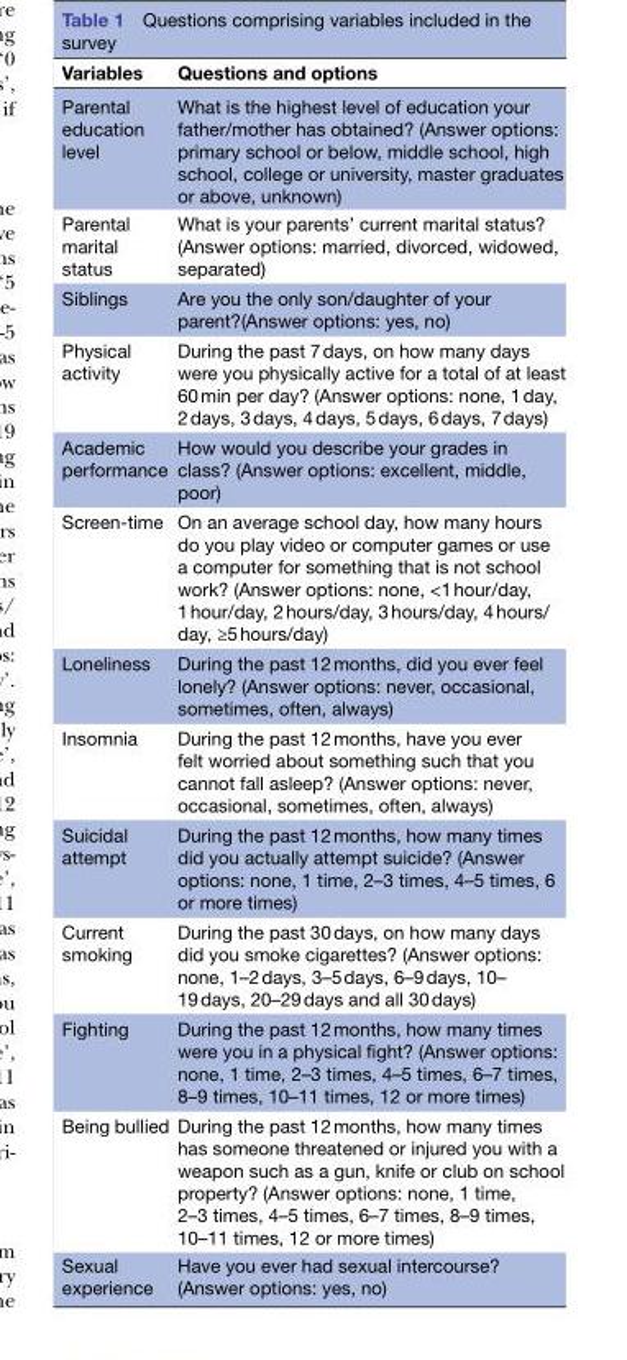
<table><thead><tr><td>Variables</td><td>Questions and options</td></tr></thead><tbody><tr><td>Parental education level</td><td>What is the highest level of education your father/mother has obtained? (Answer options: primary school or below, middle school, high school, college or university, master graduates or above, unknown)</td></tr><tr><td>Parental marital status</td><td>What is your parents’ current marital status? (Answer options: married, divorced, widowed, separated)</td></tr><tr><td>Siblings</td><td>Are you the only son/daughter of your parent?(Answer options: yes, no)</td></tr><tr><td>Physical activity</td><td>During the past 7 days, on how many days were you physically active for a total of at least 60 min per day? (Answer options: none, 1 day, 2 days, 3 days, 4 days, 5 days, 6 days, 7 days)</td></tr><tr><td>Academic performance</td><td>How would you describe your grades in class? (Answer options: excellent, middle, poor)</td></tr><tr><td>Screen-time</td><td>On an average school day, how many hours do you play video or computer games or use a computer for something that is not school work? (Answer options: none, &lt;1 hour/day, 1 hour/day, 2 hours/day, 3 hours/day, 4 hours/ day, ≥5 hours/day)</td></tr><tr><td>Loneliness</td><td>During the past 12 months, did you ever feel lonely? (Answer options: never, occasional, sometimes, often, always)</td></tr><tr><td>Insomnia</td><td>During the past 12 months, have you ever felt worried about something such that you cannot fall asleep? (Answer options: never, occasional, sometimes, often, always)</td></tr><tr><td>Suicidal attempt</td><td>During the past 12 months, how many times did you actually attempt suicide? (Answer options: none, 1 time, 2–3 times, 4–5 times, 6 or more times)</td></tr><tr><td>Current smoking</td><td>During the past 30 days, on how many days did you smoke cigarettes? (Answer options: none, 1–2 days, 3–5 days, 6–9 days, 10– 19 days, 20–29 days and all 30 days)</td></tr><tr><td>Fighting</td><td>During the past 12 months, how many times were you in a physical fight? (Answer options: none, 1 time, 2–3 times, 4–5 times, 6–7 times, 8–9 times, 10–11 times, 12 or more times)</td></tr><tr><td>Being bullied</td><td>During the past 12 months, how many times has someone threatened or injured you with a weapon such as a gun, knife or club on school property? (Answer options: none, 1 time, 2–3 times, 4–5 times, 6–7 times, 8–9 times, 10–11 times, 12 or more times)</td></tr><tr><td>Sexual experience</td><td>Have you ever had sexual intercourse? (Answer options: yes, no)</td></tr></tbody></table>